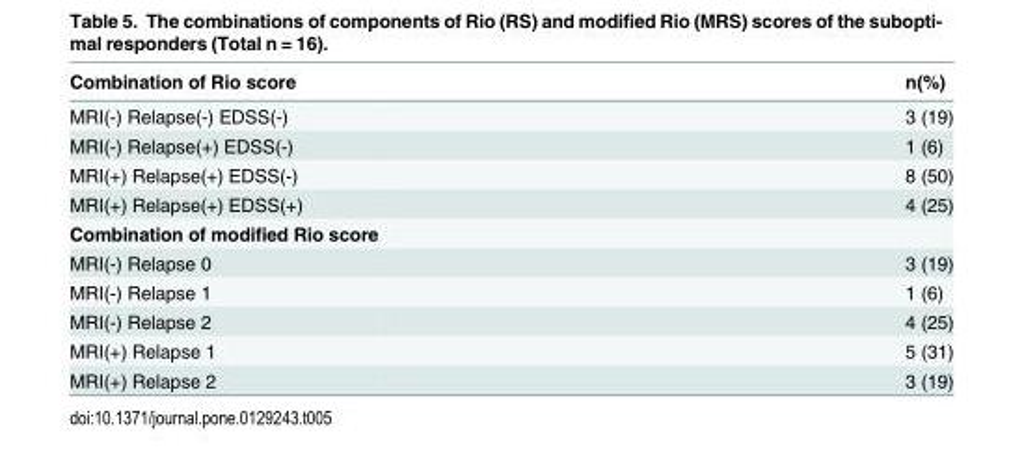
<table><thead><tr><td>Combination of Rio score</td><td>n(%)</td></tr></thead><tbody><tr><td>MRI(-) Relapse(-) EDSS(-)</td><td>3 (19)</td></tr><tr><td>MRI(-) Relapse(+) EDSS(-)</td><td>1 (6)</td></tr><tr><td>MRI(+) Relapse(+) EDSS(-)</td><td>8 (50)</td></tr><tr><td>MRI(+) Relapse(+) EDSS(+)</td><td>4 (25)</td></tr><tr><td colspan="2">Combination of modified Rio score</td></tr><tr><td>MRI(-) Relapse 0</td><td>3 (19)</td></tr><tr><td>MRI(-) Relapse 1</td><td>1 (6)</td></tr><tr><td>MRI(-) Relapse 2</td><td>4 (25)</td></tr><tr><td>MRI(+) Relapse 1</td><td>5 (31)</td></tr><tr><td>MRI(+) Relapse 2</td><td>3 (19)</td></tr></tbody></table>